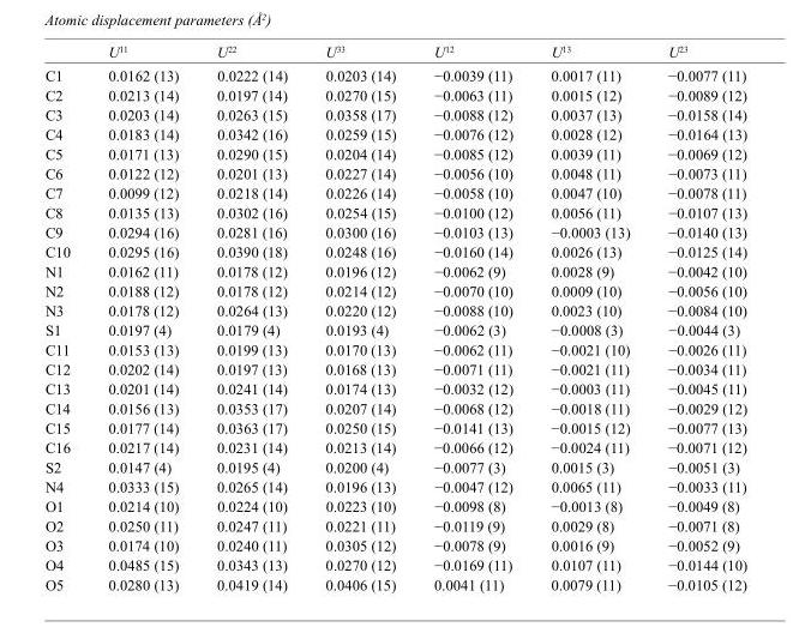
<table><thead><tr><td></td><td>U<sup>11</sup></td><td>U<sup>22</sup></td><td>U<sup>33</sup></td><td>U<sup>12</sup></td><td>U<sup>13</sup></td><td>U<sup>23</sup></td></tr></thead><tbody><tr><td>C1</td><td>0.0162 (13)</td><td>0.0222 (14)</td><td>0.0203 (14)</td><td>−0.0039 (11)</td><td>0.0017 (11)</td><td>−0.0077 (11)</td></tr><tr><td>C2</td><td>0.0213 (14)</td><td>0.0197 (14)</td><td>0.0270 (15)</td><td>−0.0063 (11)</td><td>0.0015 (12)</td><td>−0.0089 (12)</td></tr><tr><td>C3</td><td>0.0203 (14)</td><td>0.0263 (15)</td><td>0.0358 (17)</td><td>−0.0088 (12)</td><td>0.0037 (13)</td><td>−0.0158 (14)</td></tr><tr><td>C4</td><td>0.0183 (14)</td><td>0.0342 (16)</td><td>0.0259 (15)</td><td>−0.0076 (12)</td><td>0.0028 (12)</td><td>−0.0164 (13)</td></tr><tr><td>C5</td><td>0.0171 (13)</td><td>0.0290 (15)</td><td>0.0204 (14)</td><td>−0.0085 (12)</td><td>0.0039 (11)</td><td>−0.0069 (12)</td></tr><tr><td>C6</td><td>0.0122 (12)</td><td>0.0201 (13)</td><td>0.0227 (14)</td><td>−0.0056 (10)</td><td>0.0048 (11)</td><td>−0.0073 (11)</td></tr><tr><td>C7</td><td>0.0099 (12)</td><td>0.0218 (14)</td><td>0.0226 (14)</td><td>−0.0058 (10)</td><td>0.0047 (10)</td><td>−0.0078 (11)</td></tr><tr><td>C8</td><td>0.0135 (13)</td><td>0.0302 (16)</td><td>0.0254 (15)</td><td>−0.0100 (12)</td><td>0.0056 (11)</td><td>−0.0107 (13)</td></tr><tr><td>C9</td><td>0.0294 (16)</td><td>0.0281 (16)</td><td>0.0300 (16)</td><td>−0.0103 (13)</td><td>−0.0003 (13)</td><td>−0.0140 (13)</td></tr><tr><td>C10</td><td>0.0295 (16)</td><td>0.0390 (18)</td><td>0.0248 (16)</td><td>−0.0160 (14)</td><td>0.0026 (13)</td><td>−0.0125 (14)</td></tr><tr><td>N1</td><td>0.0162 (11)</td><td>0.0178 (12)</td><td>0.0196 (12)</td><td>−0.0062 (9)</td><td>0.0028 (9)</td><td>−0.0042 (10)</td></tr><tr><td>N2</td><td>0.0188 (12)</td><td>0.0178 (12)</td><td>0.0214 (12)</td><td>−0.0070 (10)</td><td>0.0009 (10)</td><td>−0.0056 (10)</td></tr><tr><td>N3</td><td>0.0178 (12)</td><td>0.0264 (13)</td><td>0.0220 (12)</td><td>−0.0088 (10)</td><td>0.0023 (10)</td><td>−0.0084 (10)</td></tr><tr><td>S1</td><td>0.0197 (4)</td><td>0.0179 (4)</td><td>0.0193 (4)</td><td>−0.0062 (3)</td><td>−0.0008 (3)</td><td>−0.0044 (3)</td></tr><tr><td>C11</td><td>0.0153 (13)</td><td>0.0199 (13)</td><td>0.0170 (13)</td><td>−0.0062 (11)</td><td>−0.0021 (10)</td><td>−0.0026 (11)</td></tr><tr><td>C12</td><td>0.0202 (14)</td><td>0.0197 (13)</td><td>0.0168 (13)</td><td>−0.0071 (11)</td><td>−0.0021 (11)</td><td>−0.0034 (11)</td></tr><tr><td>C13</td><td>0.0201 (14)</td><td>0.0241 (14)</td><td>0.0174 (13)</td><td>−0.0032 (12)</td><td>−0.0003 (11)</td><td>−0.0045 (11)</td></tr><tr><td>C14</td><td>0.0156 (13)</td><td>0.0353 (17)</td><td>0.0207 (14)</td><td>−0.0068 (12)</td><td>−0.0018 (11)</td><td>−0.0029 (12)</td></tr><tr><td>C15</td><td>0.0177 (14)</td><td>0.0363 (17)</td><td>0.0250 (15)</td><td>−0.0141 (13)</td><td>−0.0015 (12)</td><td>−0.0077 (13)</td></tr><tr><td>C16</td><td>0.0217 (14)</td><td>0.0231 (14)</td><td>0.0213 (14)</td><td>−0.0066 (12)</td><td>−0.0024 (11)</td><td>−0.0071 (12)</td></tr><tr><td>S2</td><td>0.0147 (4)</td><td>0.0195 (4)</td><td>0.0200 (4)</td><td>−0.0077 (3)</td><td>0.0015 (3)</td><td>−0.0051 (3)</td></tr><tr><td>N4</td><td>0.0333 (15)</td><td>0.0265 (14)</td><td>0.0196 (13)</td><td>−0.0047 (12)</td><td>0.0065 (11)</td><td>−0.0033 (11)</td></tr><tr><td>O1</td><td>0.0214 (10)</td><td>0.0224 (10)</td><td>0.0223 (10)</td><td>−0.0098 (8)</td><td>−0.0013 (8)</td><td>−0.0049 (8)</td></tr><tr><td>O2</td><td>0.0250 (11)</td><td>0.0247 (11)</td><td>0.0221 (11)</td><td>−0.0119 (9)</td><td>0.0029 (8)</td><td>−0.0071 (8)</td></tr><tr><td>O3</td><td>0.0174 (10)</td><td>0.0240 (11)</td><td>0.0305 (12)</td><td>−0.0078 (9)</td><td>0.0016 (9)</td><td>−0.0052 (9)</td></tr><tr><td>O4</td><td>0.0485 (15)</td><td>0.0343 (13)</td><td>0.0270 (12)</td><td>−0.0169 (11)</td><td>0.0107 (11)</td><td>−0.0144 (10)</td></tr><tr><td>O5</td><td>0.0280 (13)</td><td>0.0419 (14)</td><td>0.0406 (15)</td><td>0.0041 (11)</td><td>0.0079 (11)</td><td>−0.0105 (12)</td></tr></tbody></table>